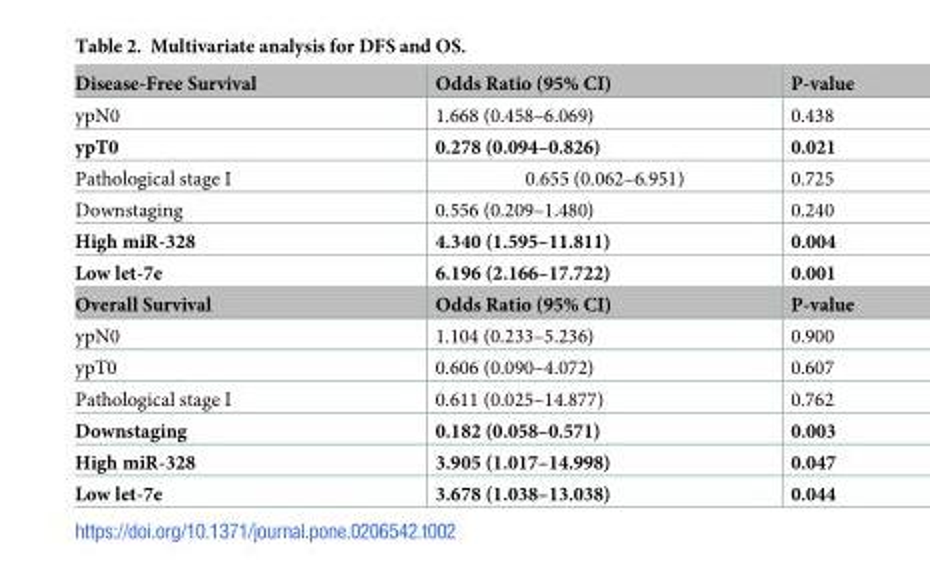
<table><tbody><tr><td>Disease-Free Survival</td><td>Odds Ratio (95% CI)</td><td>P-value</td></tr><tr><td>ypN0</td><td>1.668 (0.458–6.069)</td><td>0.438</td></tr><tr><td>ypT0</td><td>0.278 (0.094–0.826)</td><td>0.021</td></tr><tr><td>Pathological stage I</td><td>0.655 (0.062–6.951)</td><td>0.725</td></tr><tr><td>Downstaging</td><td>0.556 (0.209–1.480)</td><td>0.240</td></tr><tr><td>High miR-328</td><td>4.340 (1.595–11.811)</td><td>0.004</td></tr><tr><td>Low let-7e</td><td>6.196 (2.166–17.722)</td><td>0.001</td></tr><tr><td>Overall Survival</td><td>Odds Ratio (95% CI)</td><td>P-value</td></tr><tr><td>ypN0</td><td>1.104 (0.233–5.236)</td><td>0.900</td></tr><tr><td>ypT0</td><td>0.606 (0.090–4.072)</td><td>0.607</td></tr><tr><td>Pathological stage I</td><td>0.611 (0.025–14.877)</td><td>0.762</td></tr><tr><td>Downstaging</td><td>0.182 (0.058–0.571)</td><td>0.003</td></tr><tr><td>High miR-328</td><td>3.905 (1.017–14.998)</td><td>0.047</td></tr><tr><td>Low let-7e</td><td>3.678 (1.038–13.038)</td><td>0.044</td></tr></tbody></table>